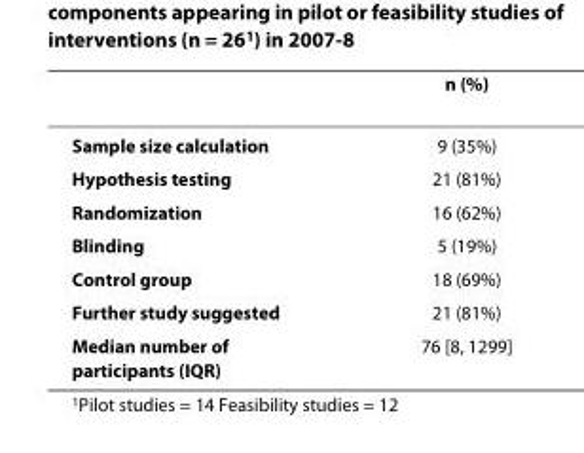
<table><thead><tr><td></td><td>n (%)</td></tr></thead><tbody><tr><td>Sample size calculation</td><td>9 (35%)</td></tr><tr><td>Hypothesis testing</td><td>21 (81%)</td></tr><tr><td>Randomization</td><td>16 (62%)</td></tr><tr><td>Blinding</td><td>5 (19%)</td></tr><tr><td>Control group</td><td>18 (69%)</td></tr><tr><td>Further study suggested</td><td>21 (81%)</td></tr><tr><td>Median number of participants (IQR)</td><td>76 [8, 1299]</td></tr></tbody></table>